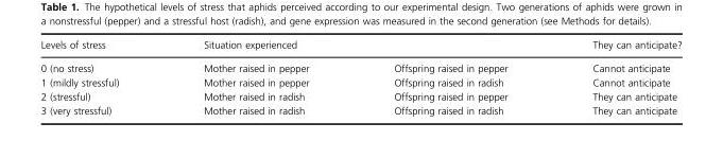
<table><thead><tr><td rowspan="2">Levels of stress 0 (no stress)</td><td colspan="2">Situation experienced</td><td rowspan="2">They can anticipate? Cannot anticipate</td></tr><tr><td>Mother raised in pepper</td><td>Offspring raised in pepper</td></tr></thead><tbody><tr><td>1 (mildly stressful)</td><td>Mother raised in pepper</td><td>Offspring raised in radish</td><td>Cannot anticipate</td></tr><tr><td>2 (stressful)</td><td>Mother raised in radish</td><td>Offspring raised in pepper</td><td>They can anticipate</td></tr><tr><td>3 (very stressful)</td><td>Mother raised in radish</td><td>Offspring raised in radish</td><td>They can anticipate</td></tr></tbody></table>